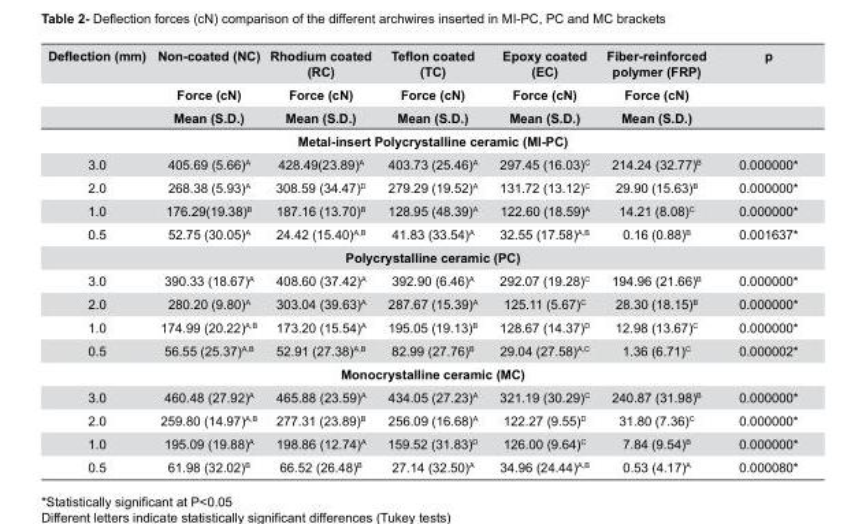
<table><thead><tr><td rowspan="3">Deflection (mm)</td><td rowspan="3">Non-coated (NC) Force (cN) Mean (S.D.)</td><td rowspan="3">Rhodium coated (RC) Force (cN) Mean (S.D.)</td><td rowspan="3">Teflon coated (TC) Force (cN) Mean (S.D.)</td><td rowspan="3">Epoxy coated (EC) Force (cN) Mean (S.D.)</td><td rowspan="3">Fiber-reinforced polymer (FRP) Force (cN) Mean (S.D.)</td><td rowspan="3">p</td></tr><tr></tr><tr></tr></thead><tbody><tr><td colspan="7">Metal-insert Polycrystalline ceramic (MI-PC)</td></tr><tr><td>3.0</td><td>405.69 (5.66)<sup>A</sup></td><td>428.49(23.89)<sup>A</sup></td><td>403.73 (25.46)<sup>A</sup></td><td>297.45 (16.03)<sup>C</sup></td><td>214.24 (32.77)<sup>B</sup></td><td>0.000000*</td></tr><tr><td>2.0</td><td>268.38 (5.93)<sup>A</sup></td><td>308.59 (34.47)<sup>D</sup></td><td>279.29 (19.52)<sup>A</sup></td><td>131.72 (13.12)<sup>C</sup></td><td>29.90 (15.63)<sup>B</sup></td><td>0.000000*</td></tr><tr><td>1.0</td><td>176.29(19.38)<sup>B</sup></td><td>187.16 (13.70)<sup>B</sup></td><td>128.95 (48.39)<sup>A</sup></td><td>122.60 (18.59)<sup>A</sup></td><td>14.21 (8.08)<sup>C</sup></td><td>0.000000*</td></tr><tr><td>0.5</td><td>52.75 (30.05)<sup>A</sup></td><td>24.42 (15.40)<sup>A,B</sup></td><td>41.83 (33.54)<sup>A</sup></td><td>32.55 (17.58)<sup>A,B</sup></td><td>0.16 (0.88)<sup>B</sup></td><td>0.001637*</td></tr><tr><td colspan="7">Polycrystalline ceramic (PC)</td></tr><tr><td>3.0</td><td>390.33 (18.67)<sup>A</sup></td><td>408.60 (37.42)<sup>A</sup></td><td>392.90 (6.46)<sup>A</sup></td><td>292.07 (19.28)<sup>C</sup></td><td>194.96 (21.66)<sup>B</sup></td><td>0.000000*</td></tr><tr><td>2.0</td><td>280.20 (9.80)<sup>A</sup></td><td>303.04 (39.63)<sup>A</sup></td><td>287.67 (15.39)<sup>A</sup></td><td>125.11 (5.67)<sup>C</sup></td><td>28.30 (18.15)<sup>B</sup></td><td>0.000000*</td></tr><tr><td>1.0</td><td>174.99 (20.22)<sup>A,B</sup></td><td>173.20 (15.54)<sup>A</sup></td><td>195.05 (19.13)<sup>B</sup></td><td>128.67 (14.37)<sup>D</sup></td><td>12.98 (13.67)<sup>C</sup></td><td>0.000000*</td></tr><tr><td>0.5</td><td>56.55 (25.37)<sup>A,B</sup></td><td>52.91 (27.38)<sup>A,B</sup></td><td>82.99 (27.76)<sup>B</sup></td><td>29.04 (27.58)<sup>A,C</sup></td><td>1.36 (6.71)<sup>C</sup></td><td>0.000002*</td></tr><tr><td colspan="7">Monocrystalline ceramic (MC)</td></tr><tr><td>3.0</td><td>460.48 (27.92)<sup>A</sup></td><td>465.88 (23.59)<sup>A</sup></td><td>434.05 (27.23)<sup>A</sup></td><td>321.19 (30.29)<sup>C</sup></td><td>240.87 (31.98)<sup>B</sup></td><td>0.000000*</td></tr><tr><td>2.0</td><td>259.80 (14.97)<sup>A,B</sup></td><td>277.31 (23.89)<sup>B</sup></td><td>256.09 (16.68)<sup>A</sup></td><td>122.27 (9.55)<sup>D</sup></td><td>31.80 (7.36)<sup>C</sup></td><td>0.000000*</td></tr><tr><td>1.0</td><td>195.09 (19.88)<sup>A</sup></td><td>198.86 (12.74)<sup>A</sup></td><td>159.52 (31.83)<sup>D</sup></td><td>126.00 (9.64)<sup>C</sup></td><td>7.84 (9.54)<sup>B</sup></td><td>0.000000*</td></tr><tr><td>0.5</td><td>61.98 (32.02)<sup>B</sup></td><td>66.52 (26.48)<sup>B</sup></td><td>27.14 (32.50)<sup>A</sup></td><td>34.96 (24.44)<sup>A,B</sup></td><td>0.53 (4.17)<sup>A</sup></td><td>0.000080*</td></tr></tbody></table>